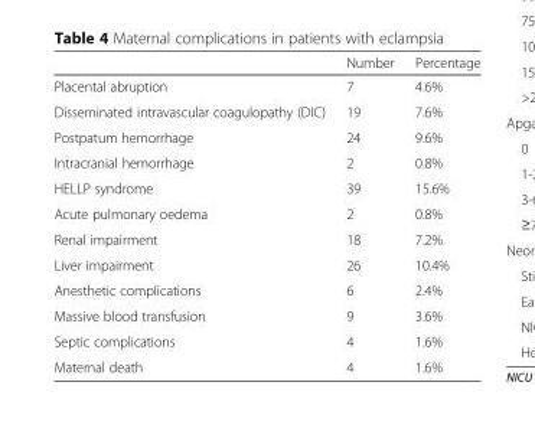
<table><thead><tr><td></td><td>Number</td><td>Percentage</td></tr></thead><tbody><tr><td>Placental abruption</td><td>7</td><td>4.6%</td></tr><tr><td>Disseminated intravascular coagulopathy (DIC)</td><td>19</td><td>7.6%</td></tr><tr><td>Postpatum hemorrhage</td><td>24</td><td>9.6%</td></tr><tr><td>Intracranial hemorrhage</td><td>2</td><td>0.8%</td></tr><tr><td>HELLP syndrome</td><td>39</td><td>15.6%</td></tr><tr><td>Acute pulmonary oedema</td><td>2</td><td>0.8%</td></tr><tr><td>Renal impairment</td><td>18</td><td>7.2%</td></tr><tr><td>Liver impairment</td><td>26</td><td>10.4%</td></tr><tr><td>Anesthetic complications</td><td>6</td><td>2.4%</td></tr><tr><td>Massive blood transfusion</td><td>9</td><td>3.6%</td></tr><tr><td>Septic complications</td><td>4</td><td>1.6%</td></tr><tr><td>Maternal death</td><td>4</td><td>1.6%</td></tr></tbody></table>